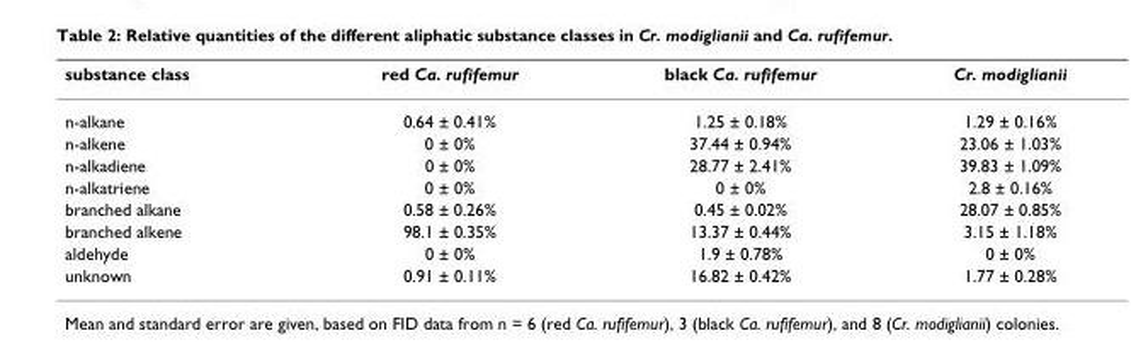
<table><thead><tr><td>substance class</td><td>red Ca. rufifemur</td><td>black Ca. rufifemur</td><td>Cr. modiglianii</td></tr></thead><tbody><tr><td>n-alkane</td><td>0.64 ± 0.41%</td><td>1.25 ± 0.18%</td><td>1.29 ± 0.16%</td></tr><tr><td>n-alkene</td><td>0 ± 0%</td><td>37.44 ± 0.94%</td><td>23.06 ± 1.03%</td></tr><tr><td>n-alkadiene</td><td>0 ± 0%</td><td>28.77 ± 2.41%</td><td>39.83 ± 1.09%</td></tr><tr><td>n-alkatriene</td><td>0 ± 0%</td><td>0 ± 0%</td><td>2.8 ± 0.16%</td></tr><tr><td>branched alkane</td><td>0.58 ± 0.26%</td><td>0.45 ± 0.02%</td><td>28.07 ± 0.85%</td></tr><tr><td>branched alkene</td><td>98.1 ± 0.35%</td><td>13.37 ± 0.44%</td><td>3.15 ± 1.18%</td></tr><tr><td>aldehyde</td><td>0 ± 0%</td><td>1.9 ± 0.78%</td><td>0 ± 0%</td></tr><tr><td>unknown</td><td>0.91 ± 0.11%</td><td>16.82 ± 0.42%</td><td>1.77 ± 0.28%</td></tr></tbody></table>